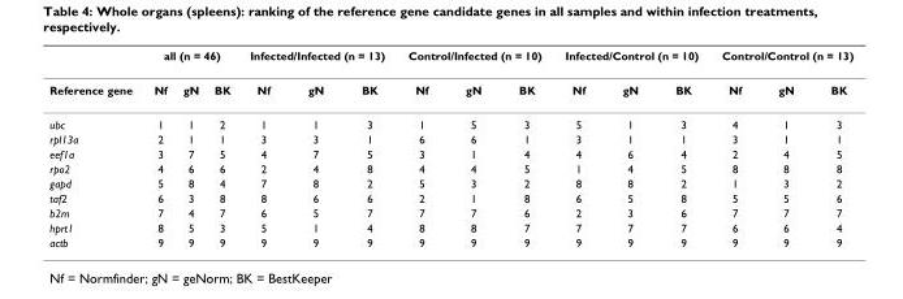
<table><thead><tr><td rowspan="2">Reference gene</td><td colspan="3">all (n = 46)</td><td colspan="3">Infected/Infected (n = 13)</td><td colspan="3">Control/Infected (n = 10)</td><td colspan="3">Infected/Control (n = 10)</td><td colspan="3">Control/Control (n = 13)</td></tr><tr><td>Nf</td><td>gN</td><td>BK</td><td>Nf</td><td>gN</td><td>BK</td><td>Nf</td><td>gN</td><td>BK</td><td>Nf</td><td>gN</td><td>BK</td><td>Nf</td><td>gN</td><td>BK</td></tr></thead><tbody><tr><td>ubc</td><td>1</td><td>1</td><td>2</td><td>1</td><td>1</td><td>3</td><td>1</td><td>5</td><td>3</td><td>5</td><td>1</td><td>3</td><td>4</td><td>1</td><td>3</td></tr><tr><td>rpl13a</td><td>2</td><td>1</td><td>1</td><td>3</td><td>3</td><td>1</td><td>6</td><td>6</td><td>1</td><td>3</td><td>1</td><td>1</td><td>3</td><td>1</td><td>1</td></tr><tr><td>eef1a</td><td>3</td><td>7</td><td>5</td><td>4</td><td>7</td><td>5</td><td>3</td><td>1</td><td>4</td><td>4</td><td>6</td><td>4</td><td>2</td><td>4</td><td>5</td></tr><tr><td>rpo2</td><td>4</td><td>6</td><td>6</td><td>2</td><td>4</td><td>8</td><td>4</td><td>4</td><td>5</td><td>1</td><td>4</td><td>5</td><td>8</td><td>8</td><td>8</td></tr><tr><td>gapd</td><td>5</td><td>8</td><td>4</td><td>7</td><td>8</td><td>2</td><td>5</td><td>3</td><td>2</td><td>8</td><td>8</td><td>2</td><td>1</td><td>3</td><td>2</td></tr><tr><td>taf2</td><td>6</td><td>3</td><td>8</td><td>8</td><td>6</td><td>6</td><td>2</td><td>1</td><td>8</td><td>6</td><td>5</td><td>8</td><td>5</td><td>5</td><td>6</td></tr><tr><td>b2m</td><td>7</td><td>4</td><td>7</td><td>6</td><td>5</td><td>7</td><td>7</td><td>7</td><td>6</td><td>2</td><td>3</td><td>6</td><td>7</td><td>7</td><td>7</td></tr><tr><td>hprt1</td><td>8</td><td>5</td><td>3</td><td>5</td><td>1</td><td>4</td><td>8</td><td>8</td><td>7</td><td>7</td><td>7</td><td>7</td><td>6</td><td>6</td><td>4</td></tr><tr><td>actb</td><td>9</td><td>9</td><td>9</td><td>9</td><td>9</td><td>9</td><td>9</td><td>9</td><td>9</td><td>9</td><td>9</td><td>9</td><td>9</td><td>9</td><td>9</td></tr></tbody></table>